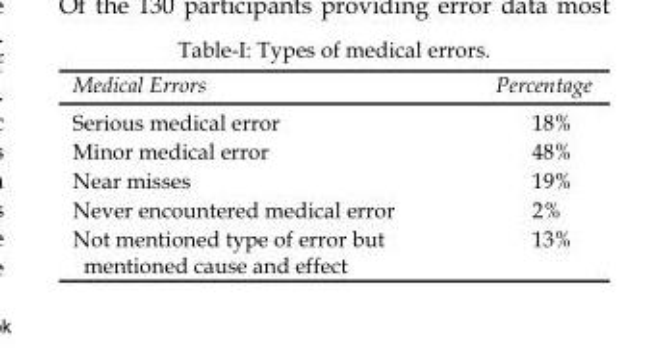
<table><thead><tr><td>Medical Errors</td><td>Percentage</td></tr></thead><tbody><tr><td>Serious medical error</td><td>18%</td></tr><tr><td>Minor medical error</td><td>48%</td></tr><tr><td>Near misses</td><td>19%</td></tr><tr><td>Never encountered medical error</td><td>2%</td></tr><tr><td>Not mentioned type of error but mentioned cause and effect</td><td>13%</td></tr></tbody></table>